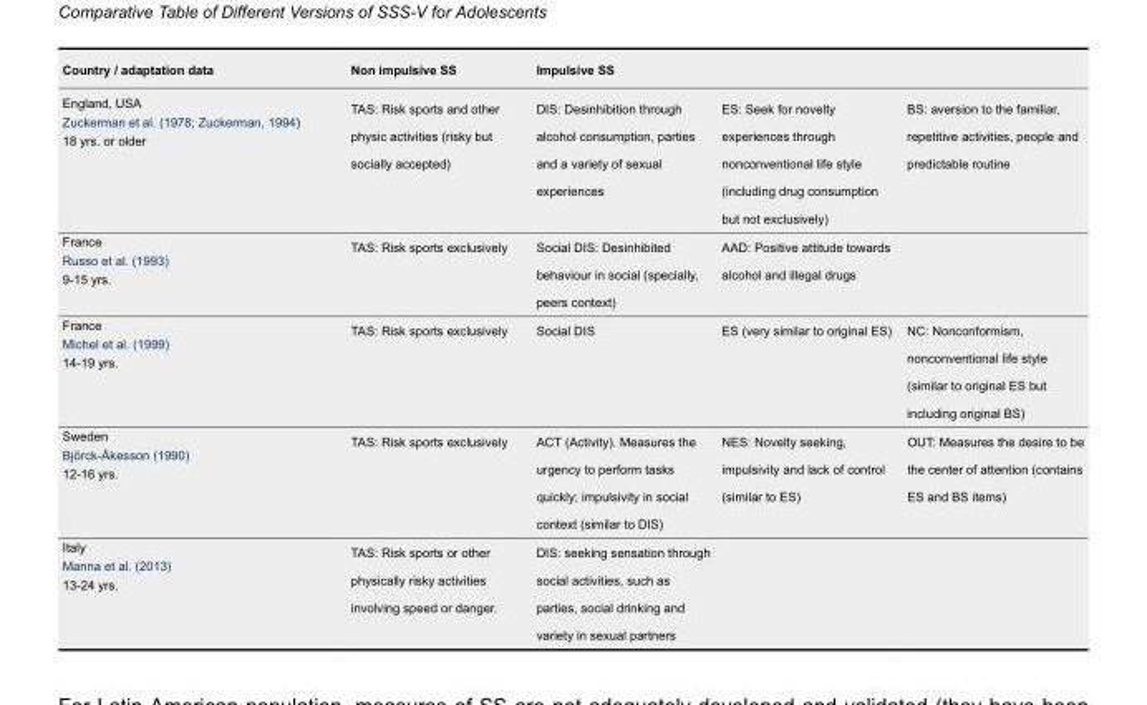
<table><thead><tr><td rowspan="2">Country / adaptation data England, USA Zuckerman et al. (1978; Zuckerman, 1994) 18 yrs. or older</td><td rowspan="2">Non impulsive SS TAS: Risk sports and other physic activities (risky but socially accepted)</td><td colspan="3">Impulsive SS</td></tr><tr><td>DIS: Desinhibition through alcohol consumption, parties and a variety of sexual experiences</td><td>ES: Seek for novelty experiences through nonconventional life style (including drug consumption but not exclusively)</td><td>BS: aversion to the familiar, repetitive activities, people and predictable routine</td></tr></thead><tbody><tr><td>France Russo et al. (1993) 9-15 yrs.</td><td>TAS: Risk sports exclusively</td><td>Social DIS: Desinhibited behaviour in social (specially, peers context)</td><td>AAD: Positive attitude towards alcohol and illegal drugs</td><td></td></tr><tr><td>France Michel et al. (1999) 14-19 yrs.</td><td>TAS: Risk sports exclusively</td><td>Social DIS</td><td>ES (very similar to original ES)</td><td>NC: Nonconformism, nonconventional life style (similar to original ES but including original BS)</td></tr><tr><td>Sweden Björck-Åkesson (1990) 12-16 yrs.</td><td>TAS: Risk sports exclusively</td><td>ACT (Activity). Measures the urgency to perform tasks quickly; impulsivity in social context (similar to DIS)</td><td>NES: Novelty seeking, impulsivity and lack of control (similar to ES)</td><td>OUT: Measures the desire to be the center of attention (contains ES and BS items)</td></tr><tr><td>Italy Manna et al. (2013) 13-24 yrs.</td><td>TAS: Risk sports or other physically risky activities involving speed or danger.</td><td>DIS: seeking sensation through social activities, such as parties, social drinking and variety in sexual partners</td><td></td><td></td></tr></tbody></table>